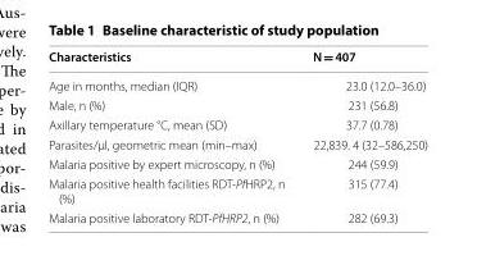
<table><thead><tr><td>Characteristics</td><td>N = 407</td></tr></thead><tbody><tr><td>Age in months, median (IQR)</td><td>23.0 (12.0–36.0)</td></tr><tr><td>Male, n (%)</td><td>231 (56.8)</td></tr><tr><td>Axillary temperature °C, mean (SD)</td><td>37.7 (0.78)</td></tr><tr><td>Parasites/μl, geometric mean (min–max)</td><td>22,839. 4 (32–586,250)</td></tr><tr><td>Malaria positive by expert microscopy, n (%)</td><td>244 (59.9)</td></tr><tr><td>Malaria positive health facilities RDT-PfHRP2, n (%)</td><td>315 (77.4)</td></tr><tr><td>Malaria positive laboratory RDT-PfHRP2, n (%)</td><td>282 (69.3)</td></tr></tbody></table>